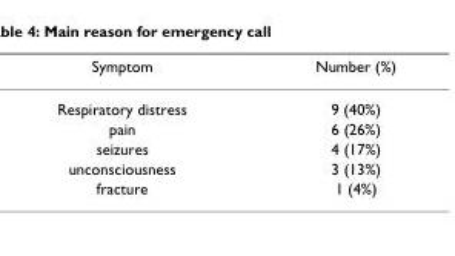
<table><thead><tr><td>Symptom</td><td>Number (%)</td></tr></thead><tbody><tr><td>Respiratory distress</td><td>9 (40%)</td></tr><tr><td>pain</td><td>6 (26%)</td></tr><tr><td>seizures</td><td>4 (17%)</td></tr><tr><td>unconsciousness</td><td>3 (13%)</td></tr><tr><td>fracture</td><td>1 (4%)</td></tr></tbody></table>